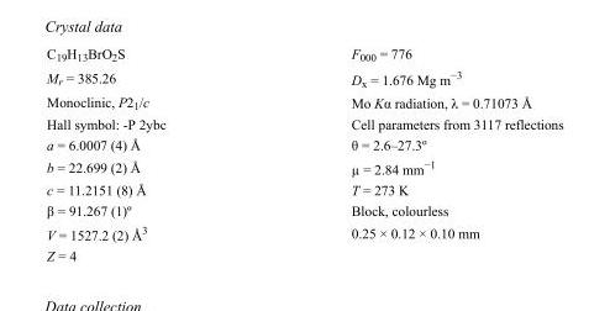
<table><tbody><tr><td>C<sub>19</sub>H<sub>13</sub>BrO<sub>2</sub>S</td><td>F000 = 776</td></tr><tr><td>M<sub>r</sub> = 385.26</td><td>D<sub>x</sub> = 1.676 Mg m<sup>−3</sup></td></tr><tr><td>Monoclinic, P2<sub>1</sub>/c</td><td>Mo Kα radiation, λ = 0.71073 Å</td></tr><tr><td>Hall symbol: -P 2ybc</td><td>Cell parameters from 3117 reflections</td></tr><tr><td>a = 6.0007 (4) Å</td><td>θ = 2.6–27.3º</td></tr><tr><td>b = 22.699 (2) Å</td><td>µ = 2.84 mm<sup>−1</sup></td></tr><tr><td>c = 11.2151 (8) Å</td><td>T = 273 K</td></tr><tr><td>β = 91.267 (1)º</td><td>Block, colourless</td></tr><tr><td>V = 1527.2 (2) Å<sup>3</sup></td><td>0.25 × 0.12 × 0.10 mm</td></tr><tr><td>Z = 4</td><td></td></tr></tbody></table>